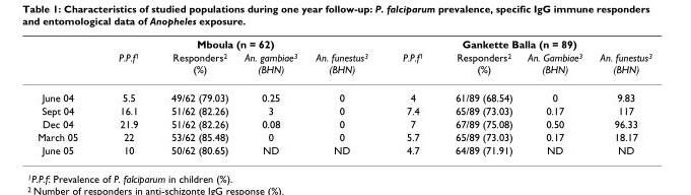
<table><thead><tr><td rowspan="2"></td><td colspan="4">Mboula (n = 62)</td><td colspan="4">Gankette Balla (n = 89)</td></tr><tr><td>P.P.f<sup>1</sup></td><td>Responders<sup>2</sup> (%)</td><td>An. gambiae<sup>3</sup> (BHN)</td><td>An. funestus<sup>3</sup> (BHN)</td><td>P.P.f<sup>1</sup></td><td>Responders<sup>2</sup> (%)</td><td>An. Gambiae<sup>3</sup> (BHN)</td><td>An. funestus<sup>3</sup> (BHN)</td></tr></thead><tbody><tr><td>June 04</td><td>5.5</td><td>49/62 (79.03)</td><td>0.25</td><td>0</td><td>4</td><td>61/89 (68.54)</td><td>0</td><td>9.83</td></tr><tr><td>Sept 04</td><td>16.1</td><td>51/62 (82.26)</td><td>3</td><td>0</td><td>7.4</td><td>65/89 (73.03)</td><td>0.17</td><td>117</td></tr><tr><td>Dec 04</td><td>21.9</td><td>51/62 (82.26)</td><td>0.08</td><td>0</td><td>7</td><td>67/89 (75.08)</td><td>0.50</td><td>96.33</td></tr><tr><td>March 05</td><td>22</td><td>53/62 (85.48)</td><td>0</td><td>0</td><td>5.7</td><td>65/89 (73.03)</td><td>0.17</td><td>18.17</td></tr><tr><td>June 05</td><td>10</td><td>50/62 (80.65)</td><td>ND</td><td>ND</td><td>4.7</td><td>64/89 (71.91)</td><td>ND</td><td>ND</td></tr></tbody></table>